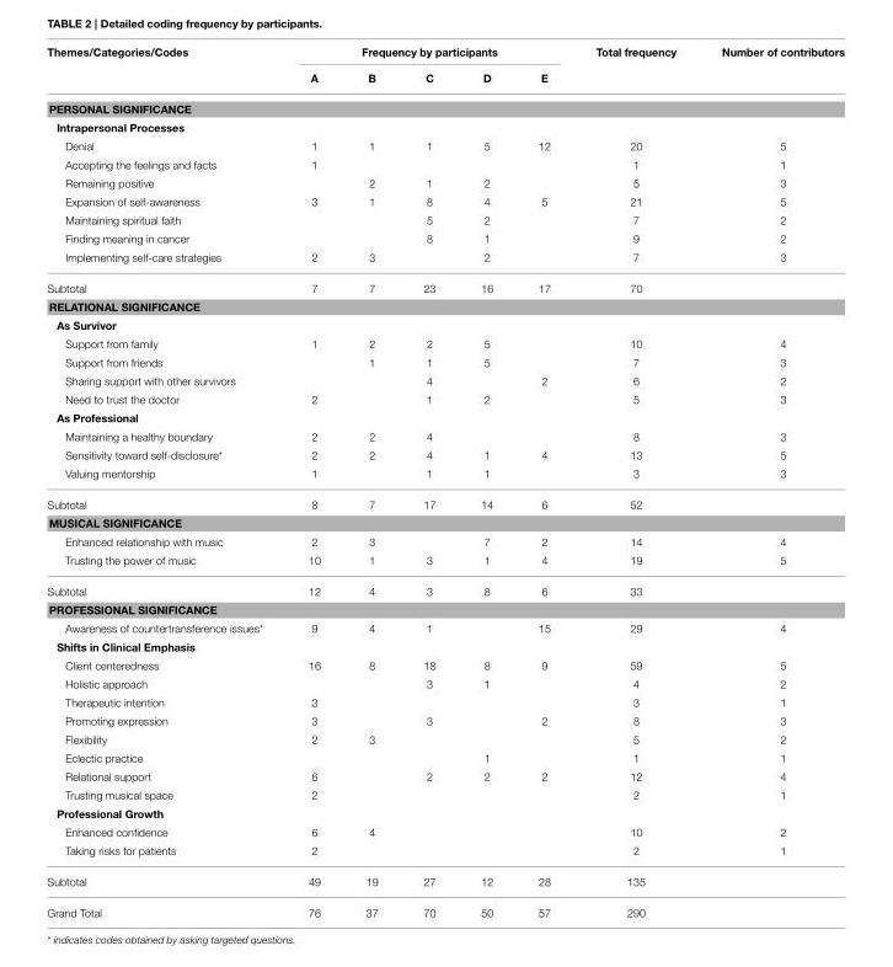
<table><thead><tr><td rowspan="2">Themes/Categories/Codes</td><td colspan="5">Frequency by participants</td><td rowspan="2">Total frequency</td><td rowspan="2">Number of contributors</td></tr><tr><td>A</td><td>B</td><td>C</td><td>D</td><td>E</td></tr></thead><tbody><tr><td colspan="8">PERSONAL SIGNIFICANCE</td></tr><tr><td colspan="8">Intrapersonal Processes</td></tr><tr><td>Denial</td><td>1</td><td>1</td><td>1</td><td>5</td><td>12</td><td>20</td><td>5</td></tr><tr><td>Accepting the feelings and facts</td><td>1</td><td></td><td></td><td></td><td></td><td>1</td><td>1</td></tr><tr><td>Remaining positive</td><td></td><td>2</td><td>1</td><td>2</td><td></td><td>5</td><td>3</td></tr><tr><td>Expansion of self-awareness</td><td>3</td><td>1</td><td>8</td><td>4</td><td>5</td><td>21</td><td>5</td></tr><tr><td>Maintaining spiritual faith</td><td></td><td></td><td>5</td><td>2</td><td></td><td>7</td><td>2</td></tr><tr><td>Finding meaning in cancer</td><td></td><td></td><td>8</td><td>1</td><td></td><td>9</td><td>2</td></tr><tr><td>Implementing self-care strategies</td><td>2</td><td>3</td><td></td><td>2</td><td></td><td>7</td><td>3</td></tr><tr><td>Subtotal</td><td>7</td><td>7</td><td>23</td><td>16</td><td>17</td><td>70</td><td></td></tr><tr><td colspan="8">RELATIONAL SIGNIFICANCE</td></tr><tr><td colspan="8">As Survivor</td></tr><tr><td>Support from family</td><td>1</td><td>2</td><td>2</td><td>5</td><td></td><td>10</td><td>4</td></tr><tr><td>Support from friends</td><td></td><td>1</td><td>1</td><td>5</td><td></td><td>7</td><td>3</td></tr><tr><td>Sharing support with other survivors</td><td></td><td></td><td>4</td><td></td><td>2</td><td>6</td><td>2</td></tr><tr><td>Need to trust the doctor</td><td>2</td><td></td><td>1</td><td>2</td><td></td><td>5</td><td>3</td></tr><tr><td colspan="8">As Professional</td></tr><tr><td>Maintaining a healthy boundary</td><td>2</td><td>2</td><td>4</td><td></td><td></td><td>8</td><td>3</td></tr><tr><td>Sensitivity toward self-disclosure*</td><td>2</td><td>2</td><td>4</td><td>1</td><td>4</td><td>13</td><td>5</td></tr><tr><td>Valuing mentorship</td><td>1</td><td></td><td>1</td><td>1</td><td></td><td>3</td><td>3</td></tr><tr><td>Subtotal</td><td>8</td><td>7</td><td>17</td><td>14</td><td>6</td><td>52</td><td></td></tr><tr><td colspan="8">MUSICAL SIGNIFICANCE</td></tr><tr><td>Enhanced relationship with music</td><td>2</td><td>3</td><td></td><td>7</td><td>2</td><td>14</td><td>4</td></tr><tr><td>Trusting the power of music</td><td>10</td><td>1</td><td>3</td><td>1</td><td>4</td><td>19</td><td>5</td></tr><tr><td>Subtotal</td><td>12</td><td>4</td><td>3</td><td>8</td><td>6</td><td>33</td><td></td></tr><tr><td colspan="8">PROFESSIONAL SIGNIFICANCE</td></tr><tr><td>Awareness of countertransference issues*</td><td>9</td><td>4</td><td>1</td><td></td><td>15</td><td>29</td><td>4</td></tr><tr><td colspan="8">Shifts in Clinical Emphasis</td></tr><tr><td>Client centeredness</td><td>16</td><td>8</td><td>18</td><td>8</td><td>9</td><td>59</td><td>5</td></tr><tr><td>Holistic approach</td><td></td><td></td><td>3</td><td>1</td><td></td><td>4</td><td>2</td></tr><tr><td>Therapeutic intention</td><td>3</td><td></td><td></td><td></td><td></td><td>3</td><td>1</td></tr><tr><td>Promoting expression</td><td>3</td><td></td><td>3</td><td></td><td>2</td><td>8</td><td>3</td></tr><tr><td>Flexibility</td><td>2</td><td>3</td><td></td><td></td><td></td><td>5</td><td>2</td></tr><tr><td>Eclectic practice</td><td></td><td></td><td></td><td>1</td><td></td><td>1</td><td>1</td></tr><tr><td>Relational support</td><td>6</td><td></td><td>2</td><td>2</td><td>2</td><td>12</td><td>4</td></tr><tr><td>Trusting musical space</td><td>2</td><td></td><td></td><td></td><td></td><td>2</td><td>1</td></tr><tr><td colspan="8">Professional Growth</td></tr><tr><td>Enhanced confidence</td><td>6</td><td>4</td><td></td><td></td><td></td><td>10</td><td>2</td></tr><tr><td>Taking risks for patients</td><td>2</td><td></td><td></td><td></td><td></td><td>2</td><td>1</td></tr><tr><td>Subtotal</td><td>49</td><td>19</td><td>27</td><td>12</td><td>28</td><td>135</td><td></td></tr><tr><td>Grand Total</td><td>76</td><td>37</td><td>70</td><td>50</td><td>57</td><td>290</td><td></td></tr></tbody></table>